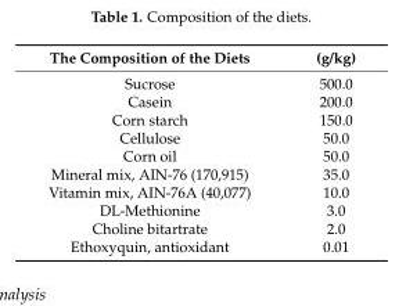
<table><thead><tr><td>The Composition of the Diets</td><td>(g/kg)</td></tr></thead><tbody><tr><td>Sucrose</td><td>500.0</td></tr><tr><td>Casein</td><td>200.0</td></tr><tr><td>Corn starch</td><td>150.0</td></tr><tr><td>Cellulose</td><td>50.0</td></tr><tr><td>Corn oil</td><td>50.0</td></tr><tr><td>Mineral mix, AIN-76 (170,915)</td><td>35.0</td></tr><tr><td>Vitamin mix, AIN-76A (40,077)</td><td>10.0</td></tr><tr><td>DL-Methionine</td><td>3.0</td></tr><tr><td>Choline bitartrate</td><td>2.0</td></tr><tr><td>Ethoxyquin, antioxidant</td><td>0.01</td></tr></tbody></table>